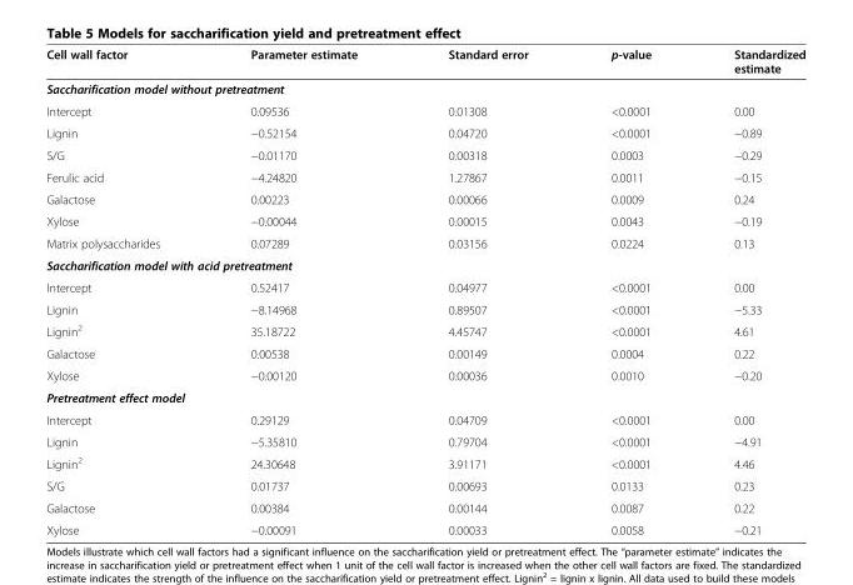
<table><thead><tr><td>Cell wall factor</td><td>Parameter estimate</td><td>Standard error</td><td>p-value</td><td>Standardized estimate</td></tr></thead><tbody><tr><td colspan="5">Saccharification model without pretreatment</td></tr><tr><td>Intercept</td><td>0.09536</td><td>0.01308</td><td>&lt;0.0001</td><td>0.00</td></tr><tr><td>Lignin</td><td>−0.52154</td><td>0.04720</td><td>&lt;0.0001</td><td>−0.89</td></tr><tr><td>S/G</td><td>−0.01170</td><td>0.00318</td><td>0.0003</td><td>−0.29</td></tr><tr><td>Ferulic acid</td><td>−4.24820</td><td>1.27867</td><td>0.0011</td><td>−0.15</td></tr><tr><td>Galactose</td><td>0.00223</td><td>0.00066</td><td>0.0009</td><td>0.24</td></tr><tr><td>Xylose</td><td>−0.00044</td><td>0.00015</td><td>0.0043</td><td>−0.19</td></tr><tr><td>Matrix polysaccharides</td><td>0.07289</td><td>0.03156</td><td>0.0224</td><td>0.13</td></tr><tr><td colspan="5">Saccharification model with acid pretreatment</td></tr><tr><td>Intercept</td><td>0.52417</td><td>0.04977</td><td>&lt;0.0001</td><td>0.00</td></tr><tr><td>Lignin</td><td>−8.14968</td><td>0.89507</td><td>&lt;0.0001</td><td>−5.33</td></tr><tr><td>Lignin<sup>2</sup></td><td>35.18722</td><td>4.45747</td><td>&lt;0.0001</td><td>4.61</td></tr><tr><td>Galactose</td><td>0.00538</td><td>0.00149</td><td>0.0004</td><td>0.22</td></tr><tr><td>Xylose</td><td>−0.00120</td><td>0.00036</td><td>0.0010</td><td>−0.20</td></tr><tr><td colspan="5">Pretreatment effect model</td></tr><tr><td>Intercept</td><td>0.29129</td><td>0.04709</td><td>&lt;0.0001</td><td>0.00</td></tr><tr><td>Lignin</td><td>−5.35810</td><td>0.79704</td><td>&lt;0.0001</td><td>−4.91</td></tr><tr><td>Lignin<sup>2</sup></td><td>24.30648</td><td>3.91171</td><td>&lt;0.0001</td><td>4.46</td></tr><tr><td>S/G</td><td>0.01737</td><td>0.00693</td><td>0.0133</td><td>0.23</td></tr><tr><td>Galactose</td><td>0.00384</td><td>0.00144</td><td>0.0087</td><td>0.22</td></tr><tr><td>Xylose</td><td>−0.00091</td><td>0.00033</td><td>0.0058</td><td>−0.21</td></tr></tbody></table>